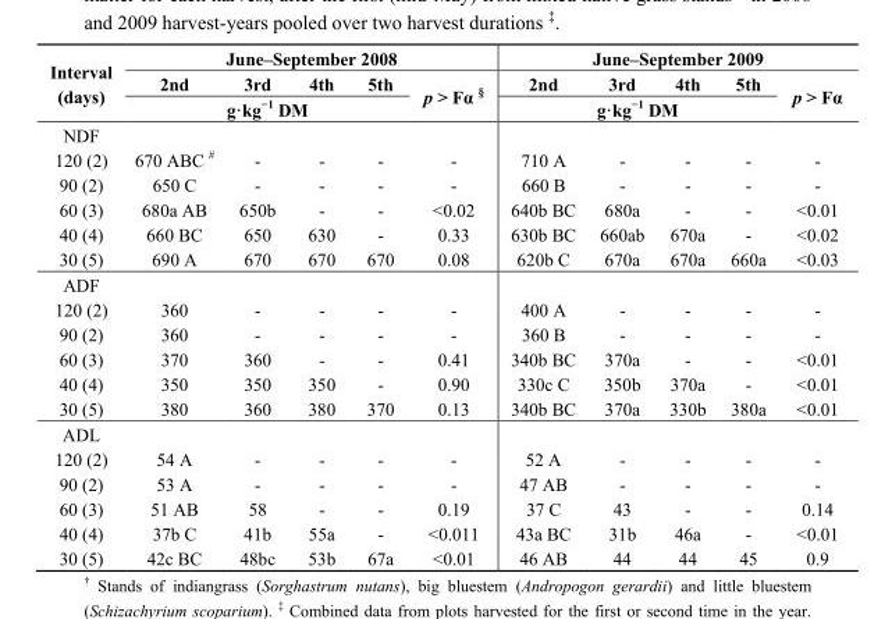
<table><thead><tr><td rowspan="3">Interval (days)</td><td colspan="5">June–September 2008</td><td colspan="5">June–September 2009</td></tr><tr><td>2nd</td><td>3rd</td><td>4th</td><td>5th</td><td rowspan="2">p &gt; Fα <sup>§</sup></td><td>2nd</td><td>3rd</td><td>4th</td><td>5th</td><td rowspan="2">p &gt; Fα</td></tr><tr><td colspan="4">g·kg<sup>−1</sup> DM</td><td colspan="4">g·kg<sup>−1</sup> DM</td></tr></thead><tbody><tr><td colspan="11">NDF</td></tr><tr><td>120 (2)</td><td>670 ABC <sup>#</sup></td><td>-</td><td>-</td><td>-</td><td>-</td><td>710 A</td><td>-</td><td>-</td><td>-</td><td>-</td></tr><tr><td>90 (2)</td><td>650 C</td><td>-</td><td>-</td><td>-</td><td>-</td><td>660 B</td><td>-</td><td>-</td><td>-</td><td>-</td></tr><tr><td>60 (3)</td><td>680a AB</td><td>650b</td><td>-</td><td>-</td><td>&lt;0.02</td><td>640b BC</td><td>680a</td><td>-</td><td>-</td><td>&lt;0.01</td></tr><tr><td>40 (4)</td><td>660 BC</td><td>650</td><td>630</td><td>-</td><td>0.33</td><td>630b BC</td><td>660ab</td><td>670a</td><td>-</td><td>&lt;0.02</td></tr><tr><td>30 (5)</td><td>690 A</td><td>670</td><td>670</td><td>670</td><td>0.08</td><td>620b C</td><td>670a</td><td>670a</td><td>660a</td><td>&lt;0.03</td></tr><tr><td colspan="11">ADF</td></tr><tr><td>120 (2)</td><td>360</td><td>-</td><td>-</td><td>-</td><td>-</td><td>400 A</td><td>-</td><td>-</td><td>-</td><td>-</td></tr><tr><td>90 (2)</td><td>360</td><td>-</td><td>-</td><td>-</td><td>-</td><td>360 B</td><td>-</td><td>-</td><td>-</td><td>-</td></tr><tr><td>60 (3)</td><td>370</td><td>360</td><td>-</td><td>-</td><td>0.41</td><td>340b BC</td><td>370a</td><td>-</td><td>-</td><td>&lt;0.01</td></tr><tr><td>40 (4)</td><td>350</td><td>350</td><td>350</td><td>-</td><td>0.90</td><td>330c C</td><td>350b</td><td>370a</td><td>-</td><td>&lt;0.01</td></tr><tr><td>30 (5)</td><td>380</td><td>360</td><td>380</td><td>370</td><td>0.13</td><td>340b BC</td><td>370a</td><td>330b</td><td>380a</td><td>&lt;0.01</td></tr><tr><td colspan="11">ADL</td></tr><tr><td>120 (2)</td><td>54 A</td><td>-</td><td>-</td><td>-</td><td>-</td><td>52 A</td><td>-</td><td>-</td><td>-</td><td>-</td></tr><tr><td>90 (2)</td><td>53 A</td><td>-</td><td>-</td><td>-</td><td>-</td><td>47 AB</td><td>-</td><td>-</td><td>-</td><td>-</td></tr><tr><td>60 (3)</td><td>51 AB</td><td>58</td><td>-</td><td>-</td><td>0.19</td><td>37 C</td><td>43</td><td>-</td><td>-</td><td>0.14</td></tr><tr><td>40 (4)</td><td>37b C</td><td>41b</td><td>55a</td><td>-</td><td>&lt;0.011</td><td>43a BC</td><td>31b</td><td>46a</td><td>-</td><td>&lt;0.01</td></tr><tr><td>30 (5)</td><td>42c BC</td><td>48bc</td><td>53b</td><td>67a</td><td>&lt;0.01</td><td>46 AB</td><td>44</td><td>44</td><td>45</td><td>0.9</td></tr></tbody></table>